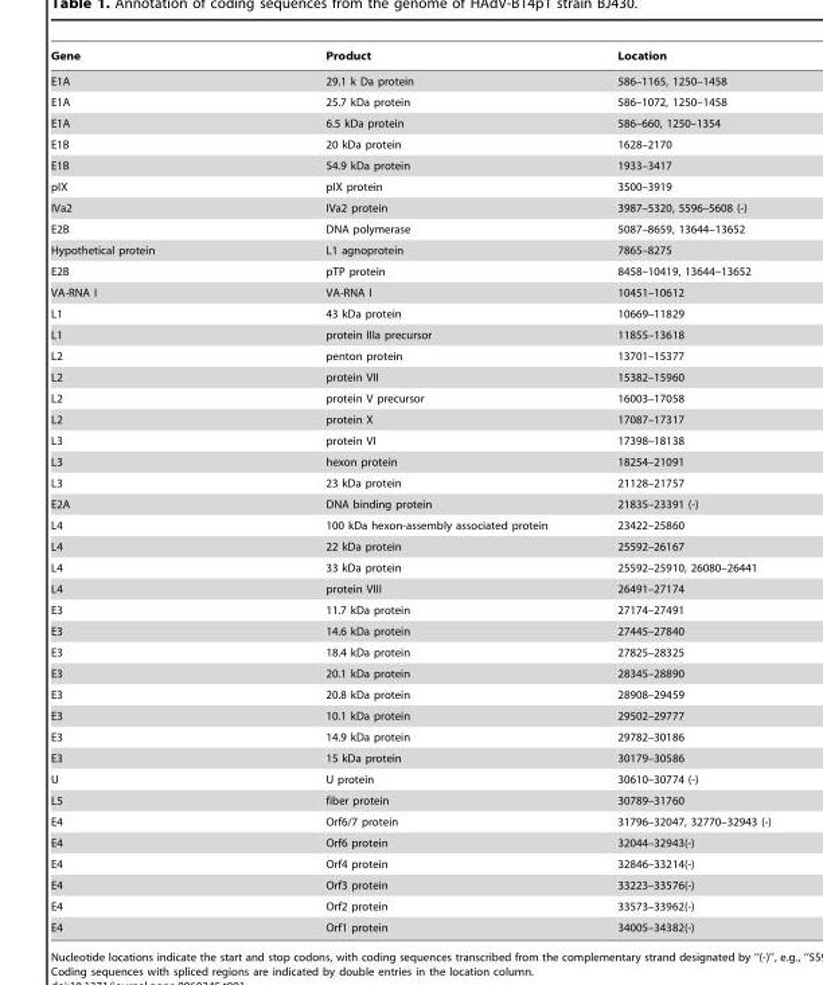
<table><thead><tr><td>Gene</td><td>Product</td><td>Location</td></tr></thead><tbody><tr><td>E1A</td><td>29.1 k Da protein</td><td>586–1165, 1250–1458</td></tr><tr><td>E1A</td><td>25.7 kDa protein</td><td>586–1072, 1250–1458</td></tr><tr><td>E1A</td><td>6.5 kDa protein</td><td>586–660, 1250–1354</td></tr><tr><td>E1B</td><td>20 kDa protein</td><td>1628–2170</td></tr><tr><td>E1B</td><td>54.9 kDa protein</td><td>1933–3417</td></tr><tr><td>pIX</td><td>pIX protein</td><td>3500–3919</td></tr><tr><td>IVa2</td><td>IVa2 protein</td><td>3987–5320, 5596–5608 (-)</td></tr><tr><td>E2B</td><td>DNA polymerase</td><td>5087–8659, 13644–13652</td></tr><tr><td>Hypothetical protein</td><td>L1 agnoprotein</td><td>7865–8275</td></tr><tr><td>E2B</td><td>pTP protein</td><td>8458–10419, 13644–13652</td></tr><tr><td>VA-RNA I</td><td>VA-RNA I</td><td>10451–10612</td></tr><tr><td>L1</td><td>43 kDa protein</td><td>10669–11829</td></tr><tr><td>L1</td><td>protein IIIa precursor</td><td>11855–13618</td></tr><tr><td>L2</td><td>penton protein</td><td>13701–15377</td></tr><tr><td>L2</td><td>protein VII</td><td>15382–15960</td></tr><tr><td>L2</td><td>protein V precursor</td><td>16003–17058</td></tr><tr><td>L2</td><td>protein X</td><td>17087–17317</td></tr><tr><td>L3</td><td>protein VI</td><td>17398–18138</td></tr><tr><td>L3</td><td>hexon protein</td><td>18254–21091</td></tr><tr><td>L3</td><td>23 kDa protein</td><td>21128–21757</td></tr><tr><td>E2A</td><td>DNA binding protein</td><td>21835–23391 (-)</td></tr><tr><td>L4</td><td>100 kDa hexon-assembly associated protein</td><td>23422–25860</td></tr><tr><td>L4</td><td>22 kDa protein</td><td>25592–26167</td></tr><tr><td>L4</td><td>33 kDa protein</td><td>25592–25910, 26080–26441</td></tr><tr><td>L4</td><td>protein VIII</td><td>26491–27174</td></tr><tr><td>E3</td><td>11.7 kDa protein</td><td>27174–27491</td></tr><tr><td>E3</td><td>14.6 kDa protein</td><td>27445–27840</td></tr><tr><td>E3</td><td>18.4 kDa protein</td><td>27825–28325</td></tr><tr><td>E3</td><td>20.1 kDa protein</td><td>28345–28890</td></tr><tr><td>E3</td><td>20.8 kDa protein</td><td>28908–29459</td></tr><tr><td>E3</td><td>10.1 kDa protein</td><td>29502–29777</td></tr><tr><td>E3</td><td>14.9 kDa protein</td><td>29782–30186</td></tr><tr><td>E3</td><td>15 kDa protein</td><td>30179–30586</td></tr><tr><td>U</td><td>U protein</td><td>30610–30774 (-)</td></tr><tr><td>L5</td><td>fiber protein</td><td>30789–31760</td></tr><tr><td>E4</td><td>Orf6/7 protein</td><td>31796–32047, 32770–32943 (-)</td></tr><tr><td>E4</td><td>Orf6 protein</td><td>32044–32943(-)</td></tr><tr><td>E4</td><td>Orf4 protein</td><td>32846–33214(-)</td></tr><tr><td>E4</td><td>Orf3 protein</td><td>33223–33576(-)</td></tr><tr><td>E4</td><td>Orf2 protein</td><td>33573–33962(-)</td></tr><tr><td>E4</td><td>Orf1 protein</td><td>34005–34382(-)</td></tr></tbody></table>